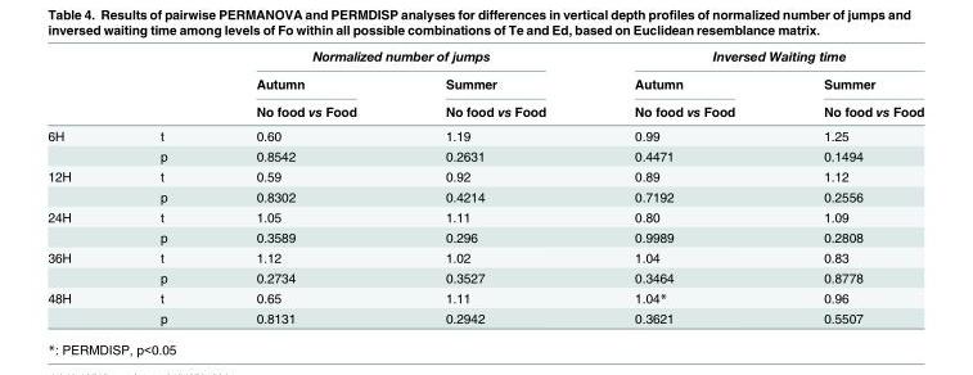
<table><thead><tr><td rowspan="3"></td><td rowspan="3"></td><td colspan="2">Normalized number of jumps</td><td colspan="2">Inversed Waiting time</td></tr><tr><td rowspan="2">Autumn No food vs Food</td><td rowspan="2">Summer No food vs Food</td><td rowspan="2">Autumn No food vs Food</td><td rowspan="2">Summer No food vs Food</td></tr><tr></tr></thead><tbody><tr><td rowspan="2">6H</td><td>t</td><td>0.60</td><td>1.19</td><td>0.99</td><td>1.25</td></tr><tr><td>p</td><td>0.8542</td><td>0.2631</td><td>0.4471</td><td>0.1494</td></tr><tr><td rowspan="2">12H</td><td>t</td><td>0.59</td><td>0.92</td><td>0.89</td><td>1.12</td></tr><tr><td>p</td><td>0.8302</td><td>0.4214</td><td>0.7192</td><td>0.2556</td></tr><tr><td rowspan="2">24H</td><td>t</td><td>1.05</td><td>1.11</td><td>0.80</td><td>1.09</td></tr><tr><td>p</td><td>0.3589</td><td>0.296</td><td>0.9989</td><td>0.2808</td></tr><tr><td rowspan="2">36H</td><td>t</td><td>1.12</td><td>1.02</td><td>1.04</td><td>0.83</td></tr><tr><td>p</td><td>0.2734</td><td>0.3527</td><td>0.3464</td><td>0.8778</td></tr><tr><td rowspan="2">48H</td><td>t</td><td>0.65</td><td>1.11</td><td>1.04*</td><td>0.96</td></tr><tr><td>p</td><td>0.8131</td><td>0.2942</td><td>0.3621</td><td>0.5507</td></tr></tbody></table>